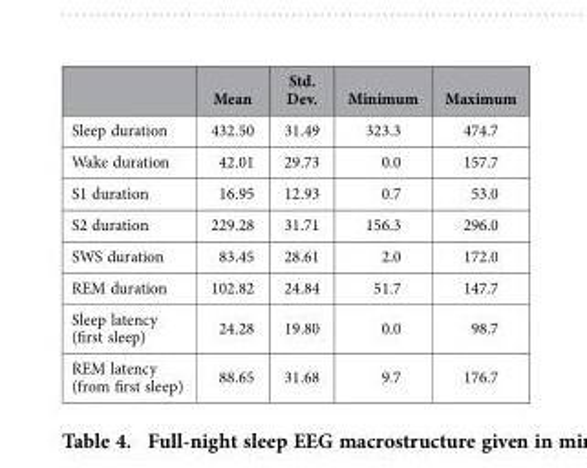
<table><thead><tr><td></td><td>Mean</td><td>Std. Dev.</td><td>Minimum</td><td>Maximum</td></tr></thead><tbody><tr><td>Sleep duration</td><td>432.50</td><td>31.49</td><td>323.3</td><td>474.7</td></tr><tr><td>Wake duration</td><td>42.01</td><td>29.73</td><td>0.0</td><td>157.7</td></tr><tr><td>S1 duration</td><td>16.95</td><td>12.93</td><td>0.7</td><td>53.0</td></tr><tr><td>S2 duration</td><td>229.28</td><td>31.71</td><td>156.3</td><td>296.0</td></tr><tr><td>SWS duration</td><td>83.45</td><td>28.61</td><td>2.0</td><td>172.0</td></tr><tr><td>REM duration</td><td>102.82</td><td>24.84</td><td>51.7</td><td>147.7</td></tr><tr><td>Sleep latency (first sleep)</td><td>24.28</td><td>19.80</td><td>0.0</td><td>98.7</td></tr><tr><td>REM latency (from first sleep)</td><td>88.65</td><td>31.68</td><td>9.7</td><td>176.7</td></tr></tbody></table>